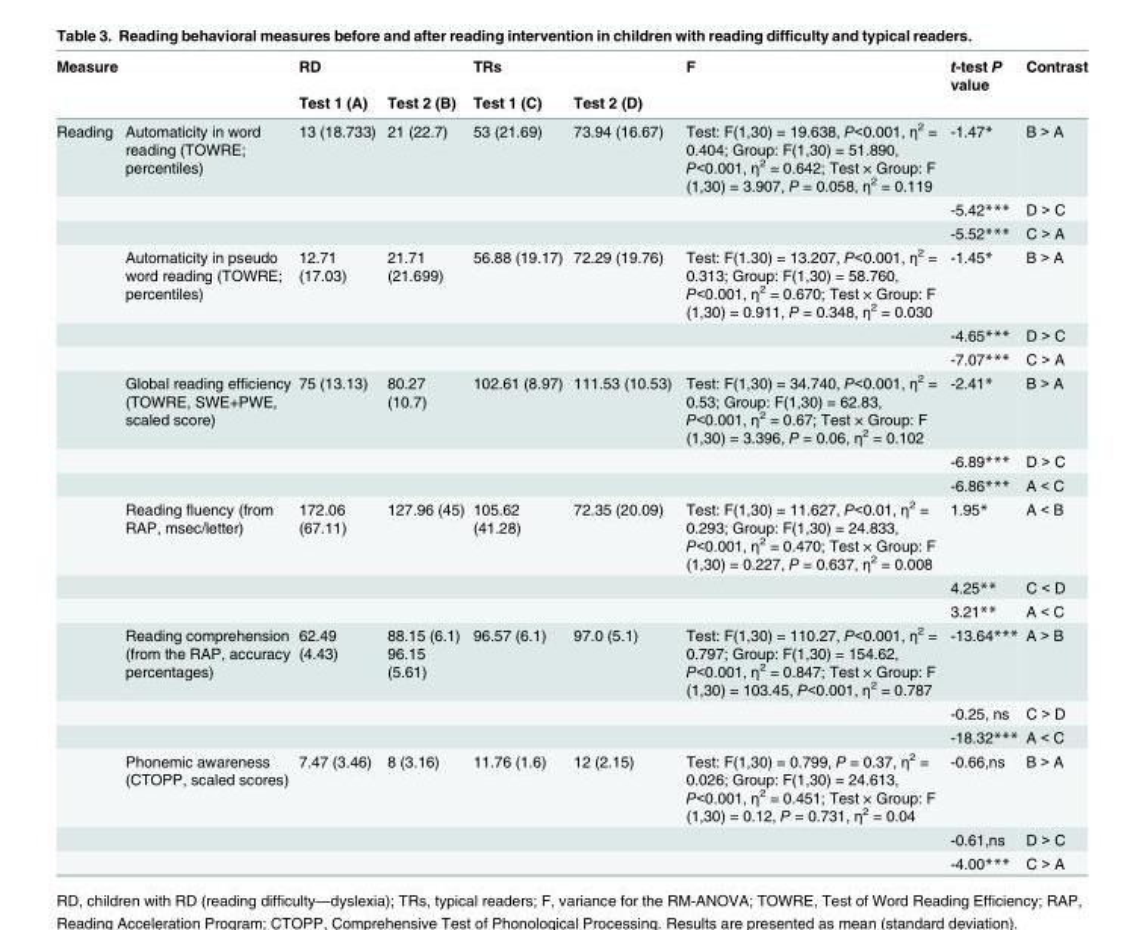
<table><thead><tr><td rowspan="2">Measure</td><td rowspan="2"></td><td rowspan="2">RD Test 1 (A)</td><td rowspan="2">Test 2 (B)</td><td rowspan="2">TRs Test 1 (C)</td><td rowspan="2">Test 2 (D)</td><td rowspan="2">F</td><td rowspan="2">t-test P value</td><td rowspan="2">Contrast</td></tr><tr></tr></thead><tbody><tr><td rowspan="18">Reading</td><td>Automaticity in word reading (TOWRE; percentiles)</td><td>13 (18.733)</td><td>21 (22.7)</td><td>53 (21.69)</td><td>73.94 (16.67)</td><td>Test: F(1,30) = 19.638, P&lt;0.001, η<sup>2</sup> = 0.404; Group: F(1,30) = 51.890, P&lt;0.001, η<sup>2</sup> = 0.642; Test × Group: F (1,30) = 3.907, P = 0.058, η<sup>2</sup> = 0.119</td><td>-1.47*</td><td>B &gt; A</td></tr><tr><td></td><td></td><td></td><td></td><td></td><td></td><td>-5.42***</td><td>D &gt; C</td></tr><tr><td></td><td></td><td></td><td></td><td></td><td></td><td>-5.52***</td><td>C &gt; A</td></tr><tr><td>Automaticity in pseudo word reading (TOWRE; percentiles)</td><td>12.71 (17.03)</td><td>21.71 (21.699)</td><td>56.88 (19.17)</td><td>72.29 (19.76)</td><td>Test: F(1.30) = 13.207, P&lt;0.001, η<sup>2</sup> = 0.313; Group: F(1,30) = 58.760, P&lt;0.001, η<sup>2</sup> = 0.670; Test × Group: F (1,30) = 0.911, P = 0.348, η<sup>2</sup> = 0.030</td><td>-1.45*</td><td>B &gt; A</td></tr><tr><td></td><td></td><td></td><td></td><td></td><td></td><td>-4.65***</td><td>D &gt; C</td></tr><tr><td></td><td></td><td></td><td></td><td></td><td></td><td>-7.07***</td><td>C &gt; A</td></tr><tr><td>Global reading efficiency (TOWRE, SWE+PWE, scaled score)</td><td>75 (13.13)</td><td>80.27 (10.7)</td><td>102.61 (8.97)</td><td>111.53 (10.53)</td><td>Test: F(1,30) = 34.740, P&lt;0.001, η<sup>2</sup> = 0.53; Group: F(1,30) = 62.83, P&lt;0.001, η<sup>2</sup> = 0.67; Test × Group: F (1,30) = 3.396, P = 0.06, η<sup>2</sup> = 0.102</td><td>-2.41*</td><td>B &gt; A</td></tr><tr><td></td><td></td><td></td><td></td><td></td><td></td><td>-6.89***</td><td>D &gt; C</td></tr><tr><td></td><td></td><td></td><td></td><td></td><td></td><td>-6.86***</td><td>A &lt; C</td></tr><tr><td>Reading fluency (from RAP, msec/letter)</td><td>172.06 (67.11)</td><td>127.96 (45)</td><td>105.62 (41.28)</td><td>72.35 (20.09)</td><td>Test: F(1,30) = 11.627, P&lt;0.01, η<sup>2</sup> = 0.293; Group: F(1,30) = 24.833, P&lt;0.001, η<sup>2</sup> = 0.470; Test × Group: F (1,30) = 0.227, P = 0.637, η<sup>2</sup> = 0.008</td><td>1.95*</td><td>A &lt; B</td></tr><tr><td></td><td></td><td></td><td></td><td></td><td></td><td>4.25**</td><td>C &lt; D</td></tr><tr><td></td><td></td><td></td><td></td><td></td><td></td><td>3.21**</td><td>A &lt; C</td></tr><tr><td>Reading comprehension (from the RAP, accuracy percentages)</td><td>62.49 (4.43)</td><td>88.15 (6.1) 96.15 (5.61)</td><td>96.57 (6.1)</td><td>97.0 (5.1)</td><td>Test: F(1,30) = 110.27, P&lt;0.001, η<sup>2</sup> = 0.797; Group: F(1,30) = 154.62, P&lt;0.001, η<sup>2</sup> = 0.847; Test × Group: F (1,30) = 103.45, P&lt;0.001, η<sup>2</sup> = 0.787</td><td>-13.64***</td><td>A &gt; B</td></tr><tr><td></td><td></td><td></td><td></td><td></td><td></td><td>-0.25, ns</td><td>C &gt; D</td></tr><tr><td></td><td></td><td></td><td></td><td></td><td></td><td>-18.32***</td><td>A &lt; C</td></tr><tr><td>Phonemic awareness (CTOPP, scaled scores)</td><td>7.47 (3.46)</td><td>8 (3.16)</td><td>11.76 (1.6)</td><td>12 (2.15)</td><td>Test: F(1,30) = 0.799, P = 0.37, η<sup>2</sup> = 0.026; Group: F(1,30) = 24.613, P&lt;0.001, η<sup>2</sup> = 0.451; Test × Group: F (1,30) = 0.12, P = 0.731, η<sup>2</sup> = 0.04</td><td>-0.66,ns</td><td>B &gt; A</td></tr><tr><td></td><td></td><td></td><td></td><td></td><td></td><td>-0.61,ns</td><td>D &gt; C</td></tr><tr><td></td><td></td><td></td><td></td><td></td><td></td><td>-4.00***</td><td>C &gt; A</td></tr></tbody></table>